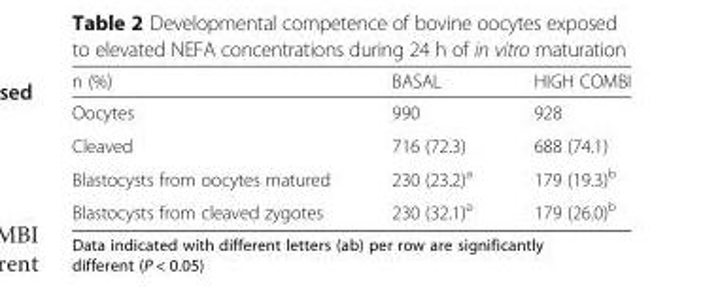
<table><thead><tr><td>n (%)</td><td>BASAL</td><td>HIGH COMBI</td></tr></thead><tbody><tr><td>Oocytes</td><td>990</td><td>928</td></tr><tr><td>Cleaved</td><td>716 (72.3)</td><td>688 (74.1)</td></tr><tr><td>Blastocysts from oocytes matured</td><td>230 (23.2)<sup>a</sup></td><td>179 (19.3)<sup>b</sup></td></tr><tr><td>Blastocysts from cleaved zygotes</td><td>230 (32.1)<sup>a</sup></td><td>179 (26.0)<sup>b</sup></td></tr></tbody></table>